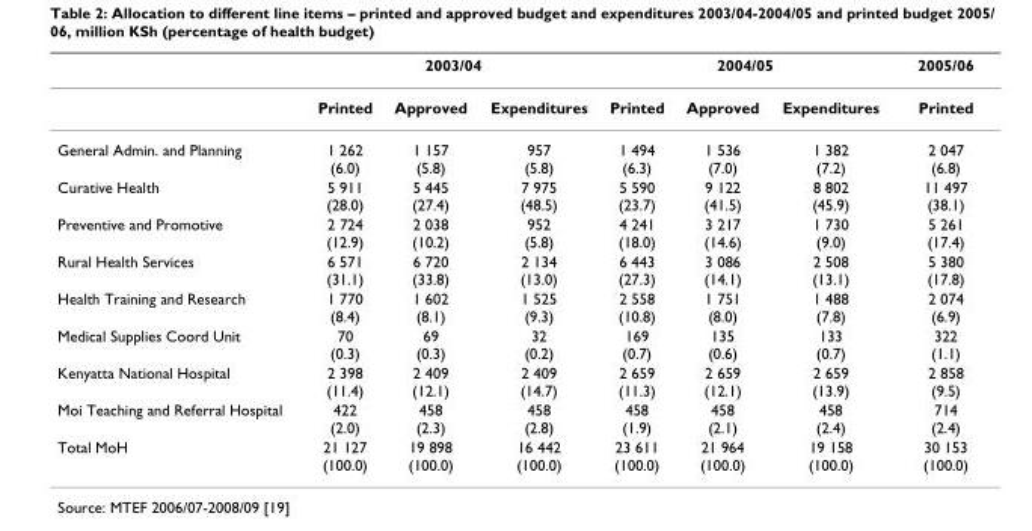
<table><thead><tr><td rowspan="2"></td><td colspan="3">2003/04</td><td colspan="3">2004/05</td><td rowspan="2">2005/06 Printed</td></tr><tr><td>Printed</td><td>Approved</td><td>Expenditures</td><td>Printed</td><td>Approved</td><td>Expenditures</td></tr></thead><tbody><tr><td>General Admin. and Planning</td><td>1 262 (6.0)</td><td>1 157 (5.8)</td><td>957 (5.8)</td><td>1 494 (6.3)</td><td>1 536 (7.0)</td><td>1 382 (7.2)</td><td>2 047 (6.8)</td></tr><tr><td>Curative Health</td><td>5 911 (28.0)</td><td>5 445 (27.4)</td><td>7 975 (48.5)</td><td>5 590 (23.7)</td><td>9 122 (41.5)</td><td>8 802 (45.9)</td><td>11 497 (38.1)</td></tr><tr><td>Preventive and Promotive</td><td>2 724 (12.9)</td><td>2 038 (10.2)</td><td>952 (5.8)</td><td>4 241 (18.0)</td><td>3 217 (14.6)</td><td>1 730 (9.0)</td><td>5 261 (17.4)</td></tr><tr><td>Rural Health Services</td><td>6 571 (31.1)</td><td>6 720 (33.8)</td><td>2 134 (13.0)</td><td>6 443 (27.3)</td><td>3 086 (14.1)</td><td>2 508 (13.1)</td><td>5 380 (17.8)</td></tr><tr><td>Health Training and Research</td><td>1 770 (8.4)</td><td>1 602 (8.1)</td><td>1 525 (9.3)</td><td>2 558 (10.8)</td><td>1 751 (8.0)</td><td>1 488 (7.8)</td><td>2 074 (6.9)</td></tr><tr><td>Medical Supplies Coord Unit</td><td>70 (0.3)</td><td>69 (0.3)</td><td>32 (0.2)</td><td>169 (0.7)</td><td>135 (0.6)</td><td>133 (0.7)</td><td>322 (1.1)</td></tr><tr><td>Kenyatta National Hospital</td><td>2 398 (11.4)</td><td>2 409 (12.1)</td><td>2 409 (14.7)</td><td>2 659 (11.3)</td><td>2 659 (12.1)</td><td>2 659 (13.9)</td><td>2 858 (9.5)</td></tr><tr><td>Moi Teaching and Referral Hospital</td><td>422 (2.0)</td><td>458 (2.3)</td><td>458 (2.8)</td><td>458 (1.9)</td><td>458 (2.1)</td><td>458 (2.4)</td><td>714 (2.4)</td></tr><tr><td>Total MoH</td><td>21 127 (100.0)</td><td>19 898 (100.0)</td><td>16 442 (100.0)</td><td>23 611 (100.0)</td><td>21 964 (100.0)</td><td>19 158 (100.0)</td><td>30 153 (100.0)</td></tr></tbody></table>